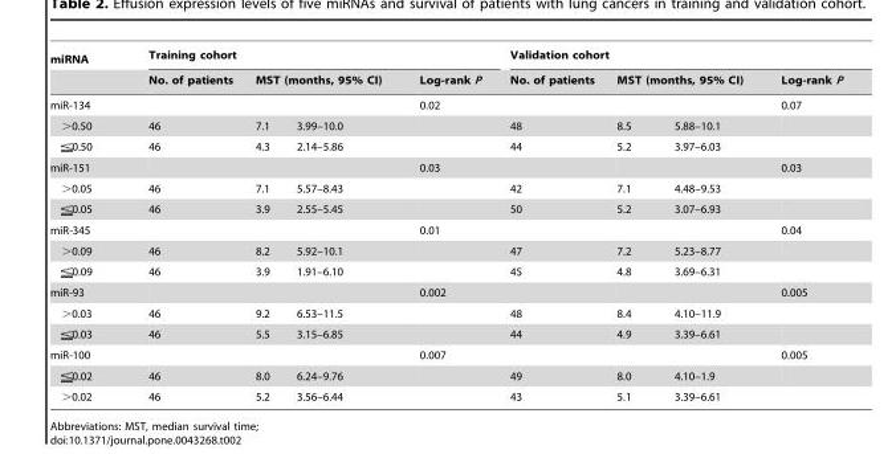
<table><thead><tr><td rowspan="3">miRNA miR-134</td><td colspan="4">Training cohort</td><td colspan="4">Validation cohort</td></tr><tr><td rowspan="2">No. of patients</td><td colspan="2">MST (months, 95% CI)</td><td rowspan="2">Log-rank P 0.02</td><td rowspan="2">No. of patients</td><td colspan="2">MST (months, 95% CI)</td><td rowspan="2">Log-rank P 0.07</td></tr><tr><td></td><td></td><td></td><td></td></tr></thead><tbody><tr><td>&gt;0.50</td><td>46</td><td>7.1</td><td>3.99–10.0</td><td></td><td>48</td><td>8.5</td><td>5.88–10.1</td><td></td></tr><tr><td>0.50</td><td>46</td><td>4.3</td><td>2.14–5.86</td><td></td><td>44</td><td>5.2</td><td>3.97–6.03</td><td></td></tr><tr><td>miR-151</td><td></td><td></td><td></td><td>0.03</td><td></td><td></td><td></td><td>0.03</td></tr><tr><td>&gt;0.05</td><td>46</td><td>7.1</td><td>5.57–8.43</td><td></td><td>42</td><td>7.1</td><td>4.48–9.53</td><td></td></tr><tr><td>0.05</td><td>46</td><td>3.9</td><td>2.55–5.45</td><td></td><td>50</td><td>5.2</td><td>3.07–6.93</td><td></td></tr><tr><td>miR-345</td><td></td><td></td><td></td><td>0.01</td><td></td><td></td><td></td><td>0.04</td></tr><tr><td>&gt;0.09</td><td>46</td><td>8.2</td><td>5.92–10.1</td><td></td><td>47</td><td>7.2</td><td>5.23–8.77</td><td></td></tr><tr><td>0.09</td><td>46</td><td>3.9</td><td>1.91–6.10</td><td></td><td>45</td><td>4.8</td><td>3.69–6.31</td><td></td></tr><tr><td>miR-93</td><td></td><td></td><td></td><td>0.002</td><td></td><td></td><td></td><td>0.005</td></tr><tr><td>&gt;0.03</td><td>46</td><td>9.2</td><td>6.53–11.5</td><td></td><td>48</td><td>8.4</td><td>4.10–11.9</td><td></td></tr><tr><td>0.03</td><td>46</td><td>5.5</td><td>3.15–6.85</td><td></td><td>44</td><td>4.9</td><td>3.39–6.61</td><td></td></tr><tr><td>miR-100</td><td></td><td></td><td></td><td>0.007</td><td></td><td></td><td></td><td>0.005</td></tr><tr><td>0.02</td><td>46</td><td>8.0</td><td>6.24–9.76</td><td></td><td>49</td><td>8.0</td><td>4.10–1.9</td><td></td></tr><tr><td>&gt;0.02</td><td>46</td><td>5.2</td><td>3.56–6.44</td><td></td><td>43</td><td>5.1</td><td>3.39–6.61</td><td></td></tr></tbody></table>